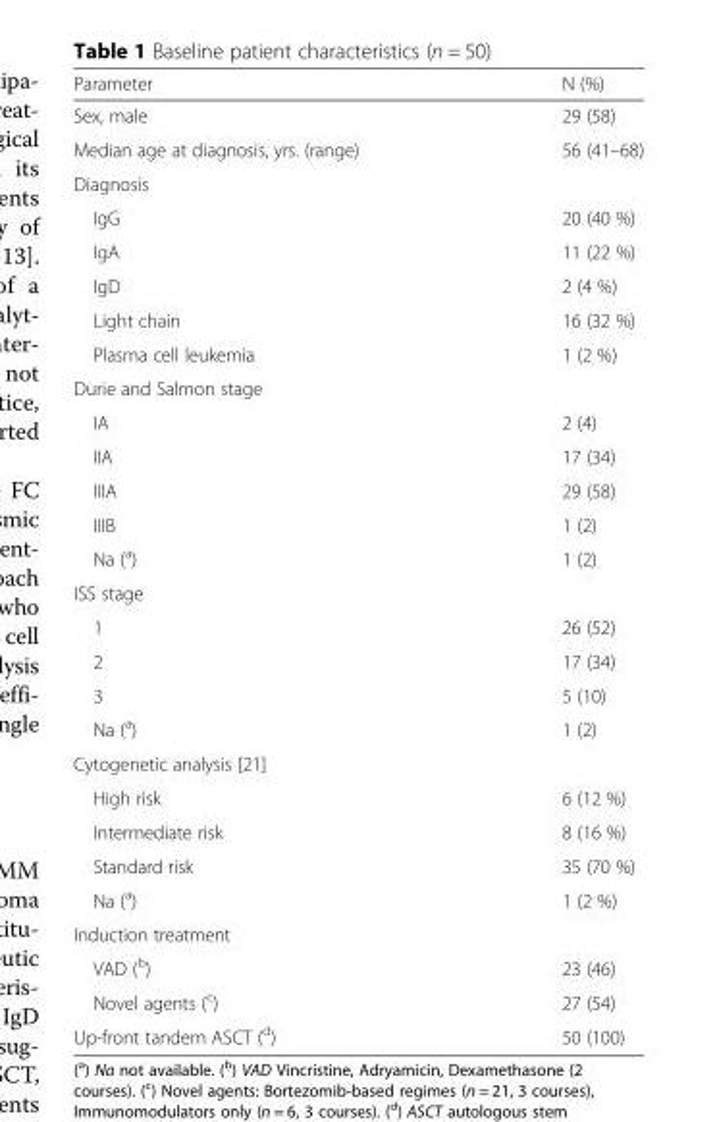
<table><thead><tr><td>Parameter</td><td>N (%)</td></tr></thead><tbody><tr><td>Sex, male</td><td>29 (58)</td></tr><tr><td>Median age at diagnosis, yrs. (range)</td><td>56 (41–68)</td></tr><tr><td colspan="2">Diagnosis</td></tr><tr><td>IgG</td><td>20 (40 %)</td></tr><tr><td>IgA</td><td>11 (22 %)</td></tr><tr><td>IgD</td><td>2 (4 %)</td></tr><tr><td>Light chain</td><td>16 (32 %)</td></tr><tr><td>Plasma cell leukemia</td><td>1 (2 %)</td></tr><tr><td colspan="2">Durie and Salmon stage</td></tr><tr><td>IA</td><td>2 (4)</td></tr><tr><td>IIA</td><td>17 (34)</td></tr><tr><td>IIIA</td><td>29 (58)</td></tr><tr><td>IIIB</td><td>1 (2)</td></tr><tr><td>Na (<sup>a</sup>)</td><td>1 (2)</td></tr><tr><td colspan="2">ISS stage</td></tr><tr><td>1</td><td>26 (52)</td></tr><tr><td>2</td><td>17 (34)</td></tr><tr><td>3</td><td>5 (10)</td></tr><tr><td>Na (<sup>a</sup>)</td><td>1 (2)</td></tr><tr><td colspan="2">Cytogenetic analysis [21]</td></tr><tr><td>High risk</td><td>6 (12 %)</td></tr><tr><td>Intermediate risk</td><td>8 (16 %)</td></tr><tr><td>Standard risk</td><td>35 (70 %)</td></tr><tr><td>Na (<sup>a</sup>)</td><td>1 (2 %)</td></tr><tr><td colspan="2">Induction treatment</td></tr><tr><td>VAD (<sup>b</sup>)</td><td>23 (46)</td></tr><tr><td>Novel agents (<sup>c</sup>)</td><td>27 (54)</td></tr><tr><td>Up-front tandem ASCT (<sup>d</sup>)</td><td>50 (100)</td></tr></tbody></table>